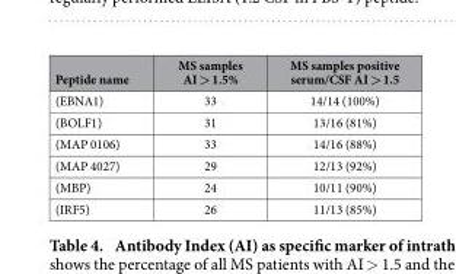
<table><thead><tr><td>Peptide name</td><td>MS samples AI &gt; 1.5%</td><td>MS samples positive serum/CSF AI &gt; 1.5</td></tr></thead><tbody><tr><td>(EBNA1)</td><td>33</td><td>14/14 (100%)</td></tr><tr><td>(BOLF1)</td><td>31</td><td>13/16 (81%)</td></tr><tr><td>(MAP 0106)</td><td>33</td><td>14/16 (88%)</td></tr><tr><td>(MAP 4027)</td><td>29</td><td>12/13 (92%)</td></tr><tr><td>(MBP)</td><td>24</td><td>10/11 (90%)</td></tr><tr><td>(IRF5)</td><td>26</td><td>11/13 (85%)</td></tr></tbody></table>